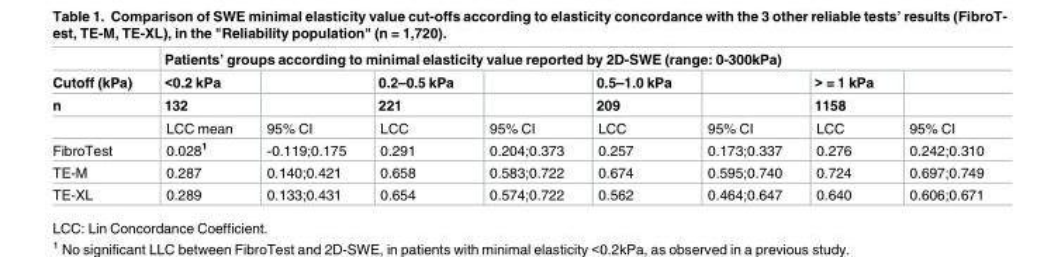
<table><thead><tr><td rowspan="3">Cutoff (kPa) n</td><td colspan="8">Patients’ groups according to minimal elasticity value reported by 2D-SWE (range: 0-300kPa)</td></tr><tr><td rowspan="2">&lt;0.2 kPa 132</td><td rowspan="2"></td><td rowspan="2">0.2–0.5 kPa 221</td><td rowspan="2"></td><td rowspan="2">0.5–1.0 kPa 209</td><td rowspan="2"></td><td rowspan="2">&gt; = 1 kPa 1158</td><td rowspan="2"></td></tr><tr></tr></thead><tbody><tr><td></td><td>LCC mean</td><td>95% CI</td><td>LCC</td><td>95% CI</td><td>LCC</td><td>95% CI</td><td>LCC</td><td>95% CI</td></tr><tr><td>FibroTest</td><td>0.028<sup>1</sup></td><td>-0.119;0.175</td><td>0.291</td><td>0.204;0.373</td><td>0.257</td><td>0.173;0.337</td><td>0.276</td><td>0.242;0.310</td></tr><tr><td>TE-M</td><td>0.287</td><td>0.140;0.421</td><td>0.658</td><td>0.583;0.722</td><td>0.674</td><td>0.595;0.740</td><td>0.724</td><td>0.697;0.749</td></tr><tr><td>TE-XL</td><td>0.289</td><td>0.133;0.431</td><td>0.654</td><td>0.574;0.722</td><td>0.562</td><td>0.464;0.647</td><td>0.640</td><td>0.606;0.671</td></tr></tbody></table>